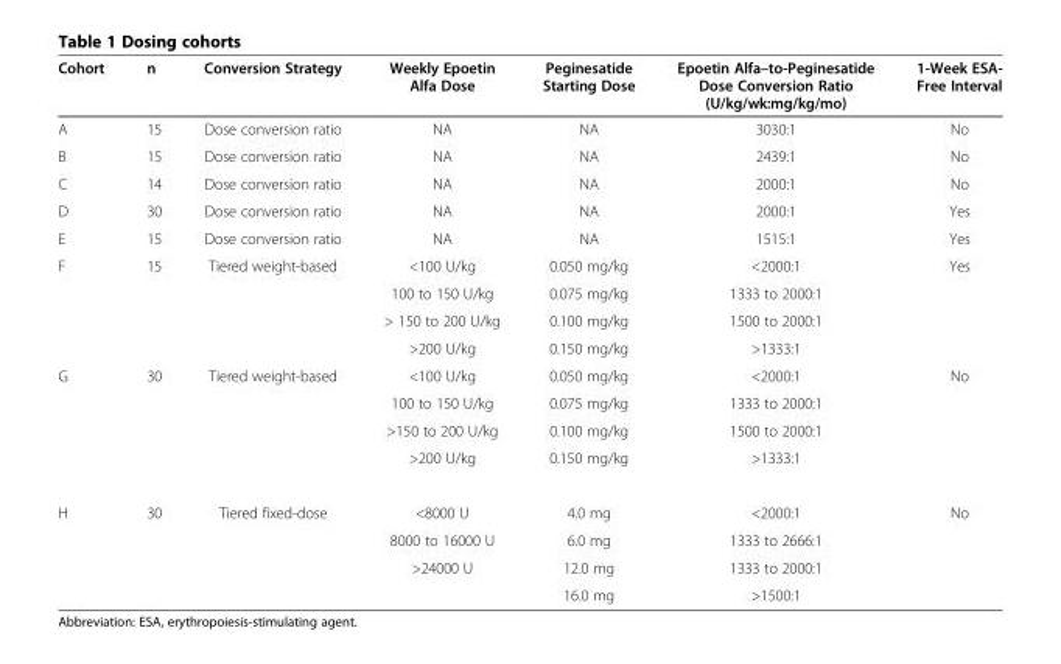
<table><thead><tr><td>Cohort</td><td>n</td><td>Conversion Strategy</td><td>Weekly Epoetin Alfa Dose</td><td>Peginesatide Starting Dose</td><td>Epoetin Alfa–to-Peginesatide Dose Conversion Ratio (U/kg/wk:mg/kg/mo)</td><td>1-Week ESA- Free Interval</td></tr></thead><tbody><tr><td>A</td><td>15</td><td>Dose conversion ratio</td><td>NA</td><td>NA</td><td>3030:1</td><td>No</td></tr><tr><td>B</td><td>15</td><td>Dose conversion ratio</td><td>NA</td><td>NA</td><td>2439:1</td><td>No</td></tr><tr><td>C</td><td>14</td><td>Dose conversion ratio</td><td>NA</td><td>NA</td><td>2000:1</td><td>No</td></tr><tr><td>D</td><td>30</td><td>Dose conversion ratio</td><td>NA</td><td>NA</td><td>2000:1</td><td>Yes</td></tr><tr><td>E</td><td>15</td><td>Dose conversion ratio</td><td>NA</td><td>NA</td><td>1515:1</td><td>Yes</td></tr><tr><td rowspan="4">F</td><td>15</td><td>Tiered weight-based</td><td>&lt;100 U/kg</td><td>0.050 mg/kg</td><td>&lt;2000:1</td><td>Yes</td></tr><tr><td></td><td></td><td>100 to 150 U/kg</td><td>0.075 mg/kg</td><td>1333 to 2000:1</td><td></td></tr><tr><td></td><td></td><td>&gt; 150 to 200 U/kg</td><td>0.100 mg/kg</td><td>1500 to 2000:1</td><td></td></tr><tr><td></td><td></td><td>&gt;200 U/kg</td><td>0.150 mg/kg</td><td>&gt;1333:1</td><td></td></tr><tr><td rowspan="4">G</td><td>30</td><td>Tiered weight-based</td><td>&lt;100 U/kg</td><td>0.050 mg/kg</td><td>&lt;2000:1</td><td>No</td></tr><tr><td></td><td></td><td>100 to 150 U/kg</td><td>0.075 mg/kg</td><td>1333 to 2000:1</td><td></td></tr><tr><td></td><td></td><td>&gt;150 to 200 U/kg</td><td>0.100 mg/kg</td><td>1500 to 2000:1</td><td></td></tr><tr><td></td><td></td><td>&gt;200 U/kg</td><td>0.150 mg/kg</td><td>&gt;1333:1</td><td></td></tr><tr><td rowspan="4">H</td><td>30</td><td>Tiered fixed-dose</td><td>&lt;8000 U</td><td>4.0 mg</td><td>&lt;2000:1</td><td>No</td></tr><tr><td></td><td></td><td>8000 to 16000 U</td><td>6.0 mg</td><td>1333 to 2666:1</td><td></td></tr><tr><td></td><td></td><td>&gt;24000 U</td><td>12.0 mg</td><td>1333 to 2000:1</td><td></td></tr><tr><td></td><td></td><td></td><td>16.0 mg</td><td>&gt;1500:1</td><td></td></tr></tbody></table>